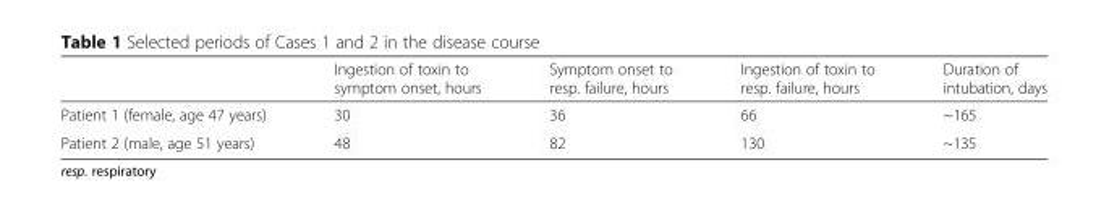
<table><thead><tr><td></td><td>Ingestion of toxin to symptom onset, hours</td><td>Symptom onset to resp. failure, hours</td><td>Ingestion of toxin to resp. failure, hours</td><td>Duration of intubation, days</td></tr></thead><tbody><tr><td>Patient 1 (female, age 47 years)</td><td>30</td><td>36</td><td>66</td><td>~165</td></tr><tr><td>Patient 2 (male, age 51 years)</td><td>48</td><td>82</td><td>130</td><td>~135</td></tr></tbody></table>